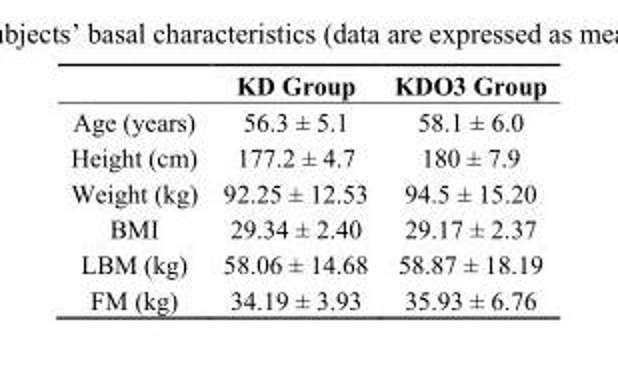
<table><thead><tr><td></td><td>KD Group</td><td>KDO3 Group</td></tr></thead><tbody><tr><td>Age (years)</td><td>56.3 ± 5.1</td><td>58.1 ± 6.0</td></tr><tr><td>Height (cm)</td><td>177.2 ± 4.7</td><td>180 ± 7.9</td></tr><tr><td>Weight (kg)</td><td>92.25 ± 12.53</td><td>94.5 ± 15.20</td></tr><tr><td>BMI</td><td>29.34 ± 2.40</td><td>29.17 ± 2.37</td></tr><tr><td>LBM (kg)</td><td>58.06 ± 14.68</td><td>58.87 ± 18.19</td></tr><tr><td>FM (kg)</td><td>34.19 ± 3.93</td><td>35.93 ± 6.76</td></tr></tbody></table>